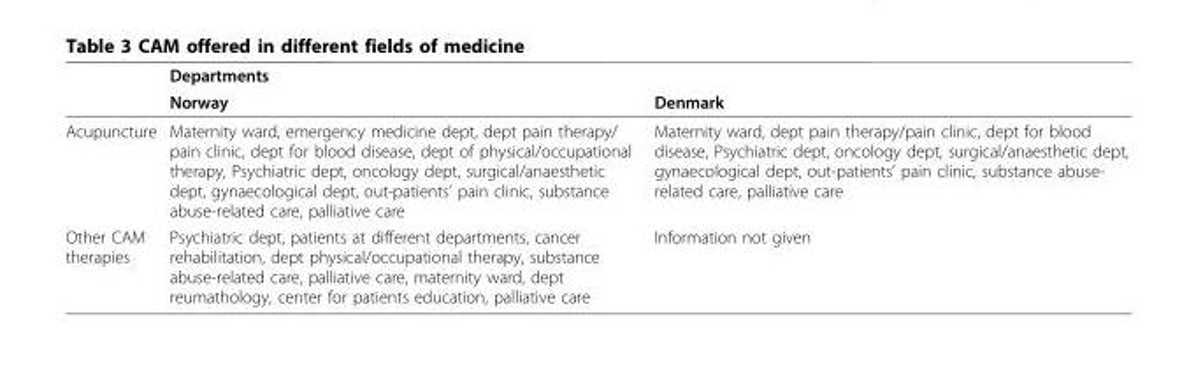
<table><thead><tr><td rowspan="2"></td><td rowspan="2">Departments Norway</td><td rowspan="2">Denmark</td></tr><tr></tr></thead><tbody><tr><td>Acupuncture</td><td>Maternity ward, emergency medicine dept, dept pain therapy/ pain clinic, dept for blood disease, dept of physical/occupational therapy, Psychiatric dept, oncology dept, surgical/anaesthetic dept, gynaecological dept, out-patients’ pain clinic, substance abuse-related care, palliative care</td><td>Maternity ward, dept pain therapy/pain clinic, dept for blood disease, Psychiatric dept, oncology dept, surgical/anaesthetic dept, gynaecological dept, out-patients’ pain clinic, substance abuse- related care, palliative care</td></tr><tr><td>Other CAM therapies</td><td>Psychiatric dept, patients at different departments, cancer rehabilitation, dept physical/occupational therapy, substance abuse-related care, palliative care, maternity ward, dept reumathology, center for patients education, palliative care</td><td>Information not given</td></tr></tbody></table>